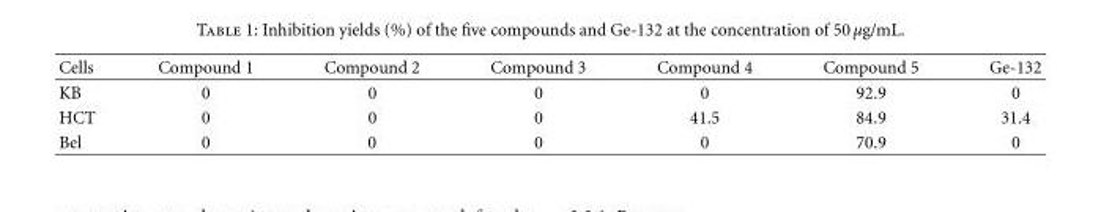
<table><thead><tr><td>Cells</td><td>Compound 1</td><td>Compound 2</td><td>Compound 3</td><td>Compound 4</td><td>Compound 5</td><td>Ge-132</td></tr></thead><tbody><tr><td>KB</td><td>0</td><td>0</td><td>0</td><td>0</td><td>92.9</td><td>0</td></tr><tr><td>HCT</td><td>0</td><td>0</td><td>0</td><td>41.5</td><td>84.9</td><td>31.4</td></tr><tr><td>Bel</td><td>0</td><td>0</td><td>0</td><td>0</td><td>70.9</td><td>0</td></tr></tbody></table>